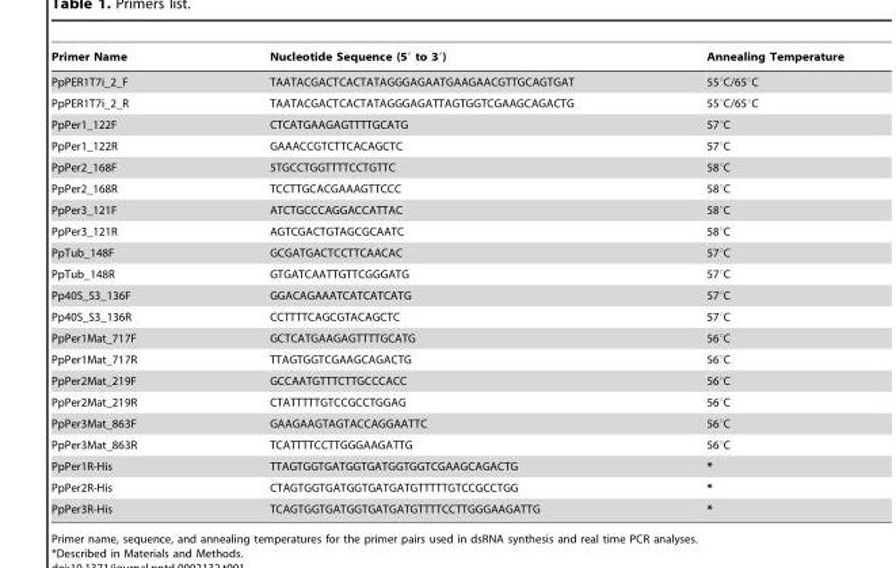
<table><thead><tr><td>Primer Name</td><td>Nucleotide Sequence (5′ to 3′)</td><td>Annealing Temperature</td></tr></thead><tbody><tr><td>PpPER1T7i_2_F</td><td>TAATACGACTCACTATAGGGAGAATGAAGAACGTTGCAGTGAT</td><td>55°C/65°C</td></tr><tr><td>PpPER1T7i_2_R</td><td>TAATACGACTCACTATAGGGAGATTAGTGGTCGAAGCAGACTG</td><td>55°C/65°C</td></tr><tr><td>PpPer1_122F</td><td>CTCATGAAGAGTTTTGCATG</td><td>57°C</td></tr><tr><td>PpPer1_122R</td><td>GAAACCGTCTTCACAGCTC</td><td>57°C</td></tr><tr><td>PpPer2_168F</td><td>5TGCCTGGTTTTCCTGTTC</td><td>58°C</td></tr><tr><td>PpPer2_168R</td><td>TCCTTGCACGAAAGTTCCC</td><td>58°C</td></tr><tr><td>PpPer3_121F</td><td>ATCTGCCCAGGACCATTAC</td><td>58°C</td></tr><tr><td>PpPer3_121R</td><td>AGTCGACTGTAGCGCAATC</td><td>58°C</td></tr><tr><td>PpTub_148F</td><td>GCGATGACTCCTTCAACAC</td><td>57°C</td></tr><tr><td>PpTub_148R</td><td>GTGATCAATTGTTCGGGATG</td><td>57°C</td></tr><tr><td>Pp40S_S3_136F</td><td>GGACAGAAATCATCATCATG</td><td>57°C</td></tr><tr><td>Pp40S_S3_136R</td><td>CCTTTTCAGCGTACAGCTC</td><td>57°C</td></tr><tr><td>PpPer1Mat_717F</td><td>GCTCATGAAGAGTTTTGCATG</td><td>56°C</td></tr><tr><td>PpPer1Mat_717R</td><td>TTAGTGGTCGAAGCAGACTG</td><td>56°C</td></tr><tr><td>PpPer2Mat_219F</td><td>GCCAATGTTTCTTGCCCACC</td><td>56°C</td></tr><tr><td>PpPer2Mat_219R</td><td>CTATTTTTGTCCGCCTGGAG</td><td>56°C</td></tr><tr><td>PpPer3Mat_863F</td><td>GAAGAAGTAGTACCAGGAATTC</td><td>56°C</td></tr><tr><td>PpPer3Mat_863R</td><td>TCATTTTCCTTGGGAAGATTG</td><td>56°C</td></tr><tr><td>PpPer1R-His</td><td>TTAGTGGTGATGGTGATGGTGGTCGAAGCAGACTG</td><td>*</td></tr><tr><td>PpPer2R-His</td><td>CTAGTGGTGATGGTGATGATGTTTTTGTCCGCCTGG</td><td>*</td></tr><tr><td>PpPer3R-His</td><td>TCAGTGGTGATGGTGATGATGTTTTCCTTGGGAAGATTG</td><td>*</td></tr></tbody></table>